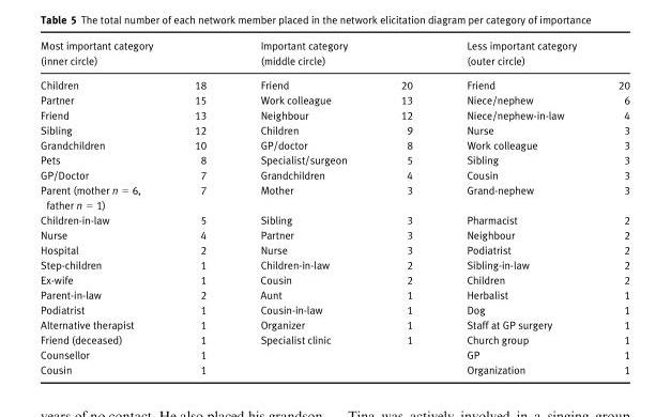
<table><thead><tr><td colspan="2">Most important category (inner circle)</td><td colspan="2">Important category (middle circle)</td><td colspan="2">Less important category (outer circle)</td></tr><tr><td>Children</td><td>18</td><td>Friend</td><td>20</td><td>Friend</td><td>20</td></tr></thead><tbody><tr><td>Partner</td><td>15</td><td>Work colleague</td><td>13</td><td>Niece/nephew</td><td>6</td></tr><tr><td>Friend</td><td>13</td><td>Neighbour</td><td>12</td><td>Niece/nephew-in-law</td><td>4</td></tr><tr><td>Sibling</td><td>12</td><td>Children</td><td>9</td><td>Nurse</td><td>3</td></tr><tr><td>Grandchildren</td><td>10</td><td>GP/doctor</td><td>8</td><td>Work colleague</td><td>3</td></tr><tr><td>Pets</td><td>8</td><td>Specialist/surgeon</td><td>5</td><td>Sibling</td><td>3</td></tr><tr><td>GP/Doctor</td><td>7</td><td>Grandchildren</td><td>4</td><td>Cousin</td><td>3</td></tr><tr><td>Parent (mother n = 6, father n = 1)</td><td>7</td><td>Mother</td><td>3</td><td>Grand-nephew</td><td>3</td></tr><tr><td>Children-in-law</td><td>5</td><td>Sibling</td><td>3</td><td>Pharmacist</td><td>2</td></tr><tr><td>Nurse</td><td>4</td><td>Partner</td><td>3</td><td>Neighbour</td><td>2</td></tr><tr><td>Hospital</td><td>2</td><td>Nurse</td><td>3</td><td>Podiatrist</td><td>2</td></tr><tr><td>Step-children</td><td>1</td><td>Children-in-law</td><td>2</td><td>Sibling-in-law</td><td>2</td></tr><tr><td>Ex-wife</td><td>1</td><td>Cousin</td><td>2</td><td>Children</td><td>2</td></tr><tr><td>Parent-in-law</td><td>2</td><td>Aunt</td><td>1</td><td>Herbalist</td><td>1</td></tr><tr><td>Podiatrist</td><td>1</td><td>Cousin-in-law</td><td>1</td><td>Dog</td><td>1</td></tr><tr><td>Alternative therapist</td><td>1</td><td>Organizer</td><td>1</td><td>Staff at GP surgery</td><td>1</td></tr><tr><td>Friend (deceased)</td><td>1</td><td>Specialist clinic</td><td>1</td><td>Church group</td><td>1</td></tr><tr><td>Counsellor</td><td>1</td><td></td><td></td><td>GP</td><td>1</td></tr><tr><td>Cousin</td><td>1</td><td></td><td></td><td>Organization</td><td>1</td></tr></tbody></table>